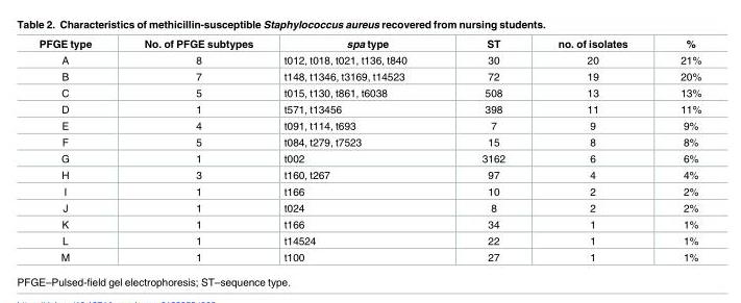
<table><thead><tr><td>PFGE type</td><td>No. of PFGE subtypes</td><td>spa type</td><td>ST</td><td>no. of isolates</td><td>%</td></tr></thead><tbody><tr><td>A</td><td>8</td><td>t012, t018, t021, t136, t840</td><td>30</td><td>20</td><td>21%</td></tr><tr><td>B</td><td>7</td><td>t148, t1346, t3169, t14523</td><td>72</td><td>19</td><td>20%</td></tr><tr><td>C</td><td>5</td><td>t015, t130, t861, t6038</td><td>508</td><td>13</td><td>13%</td></tr><tr><td>D</td><td>1</td><td>t571, t13456</td><td>398</td><td>11</td><td>11%</td></tr><tr><td>E</td><td>4</td><td>t091, t114, t693</td><td>7</td><td>9</td><td>9%</td></tr><tr><td>F</td><td>5</td><td>t084, t279, t7523</td><td>15</td><td>8</td><td>8%</td></tr><tr><td>G</td><td>1</td><td>t002</td><td>3162</td><td>6</td><td>6%</td></tr><tr><td>H</td><td>3</td><td>t160, t267</td><td>97</td><td>4</td><td>4%</td></tr><tr><td>I</td><td>1</td><td>t166</td><td>10</td><td>2</td><td>2%</td></tr><tr><td>J</td><td>1</td><td>t024</td><td>8</td><td>2</td><td>2%</td></tr><tr><td>K</td><td>1</td><td>t166</td><td>34</td><td>1</td><td>1%</td></tr><tr><td>L</td><td>1</td><td>t14524</td><td>22</td><td>1</td><td>1%</td></tr><tr><td>M</td><td>1</td><td>t100</td><td>27</td><td>1</td><td>1%</td></tr></tbody></table>